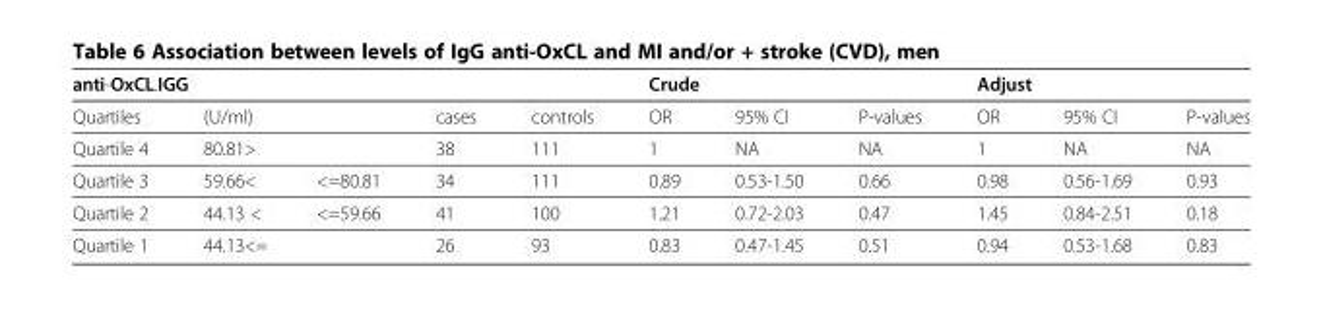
<table><thead><tr><td colspan="3">anti-OxCL.IGG</td><td rowspan="4">cases 38 34</td><td rowspan="4">controls 111 111</td><td colspan="3">Crude</td><td colspan="3">Adjust</td></tr><tr><td rowspan="3">Quartiles Quartile 4 Quartile 3</td><td rowspan="2" colspan="2">(U/ml) 80.81&gt;</td><td rowspan="3">OR 1 0.89</td><td rowspan="3">95% CI NA 0.53-1.50</td><td rowspan="3">P-values NA 0.66</td><td rowspan="3">OR 1 0.98</td><td rowspan="3">95% CI NA 0.56-1.69</td><td rowspan="3">P-values NA 0.93</td></tr><tr></tr><tr><td>59.66&lt;</td><td>&lt;=80.81</td></tr></thead><tbody><tr><td>Quartile 2</td><td>44.13 &lt;</td><td>&lt;=59.66</td><td>41</td><td>100</td><td>1.21</td><td>0.72-2.03</td><td>0.47</td><td>1.45</td><td>0.84-2.51</td><td>0.18</td></tr><tr><td>Quartile 1</td><td colspan="2">44.13&lt;=</td><td>26</td><td>93</td><td>0.83</td><td>0.47-1.45</td><td>0.51</td><td>0.94</td><td>0.53-1.68</td><td>0.83</td></tr></tbody></table>